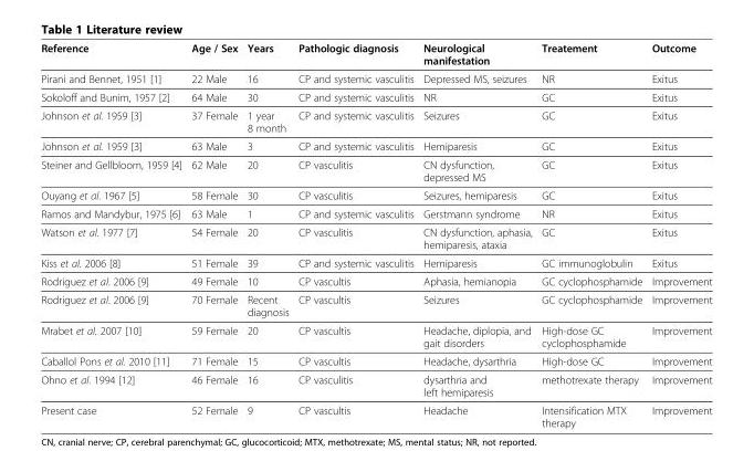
<table><thead><tr><td>Reference</td><td>Age / Sex</td><td>Years</td><td>Pathologic diagnosis</td><td>Neurological manifestation</td><td>Treatement</td><td>Outcome</td></tr></thead><tbody><tr><td>Pirani and Bennet, 1951 [1]</td><td>22 Male</td><td>16</td><td>CP and systemic vasculitis</td><td>Depressed MS, seizures</td><td>NR</td><td>Exitus</td></tr><tr><td>Sokoloff and Bunim, 1957 [2]</td><td>64 Male</td><td>30</td><td>CP and systemic vasculitis</td><td>NR</td><td>GC</td><td>Exitus</td></tr><tr><td>Johnson et al. 1959 [3]</td><td>37 Female</td><td>1 year 8 month</td><td>CP and systemic vasculitis</td><td>Seizures</td><td>GC</td><td>Exitus</td></tr><tr><td>Johnson et al. 1959 [3]</td><td>63 Male</td><td>3</td><td>CP and systemic vasculitis</td><td>Hemiparesis</td><td>GC</td><td>Exitus</td></tr><tr><td>Steiner and Gellbloom, 1959 [4]</td><td>62 Male</td><td>20</td><td>CP vasculitis</td><td>CN dysfunction, depressed MS</td><td>GC</td><td>Exitus</td></tr><tr><td>Ouyang et al. 1967 [5]</td><td>58 Female</td><td>30</td><td>CP vasculitis</td><td>Seizures, hemiparesis</td><td>GC</td><td>Exitus</td></tr><tr><td>Ramos and Mandybur, 1975 [6]</td><td>63 Male</td><td>1</td><td>CP and systemic vasculitis</td><td>Gerstmann syndrome</td><td>NR</td><td>Exitus</td></tr><tr><td>Watson et al. 1977 [7]</td><td>54 Female</td><td>20</td><td>CP vasculitis</td><td>CN dysfunction, aphasia, hemiparesis, ataxia</td><td>GC</td><td>Exitus</td></tr><tr><td>Kiss et al. 2006 [8]</td><td>51 Female</td><td>39</td><td>CP and systemic vasculitis</td><td>Hemiparesis</td><td>GC immunoglobulin</td><td>Exitus</td></tr><tr><td>Rodriguez et al. 2006 [9]</td><td>49 Female</td><td>10</td><td>CP vascultis</td><td>Aphasia, hemianopia</td><td>GC cyclophosphamide</td><td>Improvement</td></tr><tr><td>Rodriguez et al. 2006 [9]</td><td>70 Female</td><td>Recent diagnosis</td><td>CP vascultis</td><td>Seizures</td><td>GC cyclophosphamide</td><td>Improvement</td></tr><tr><td>Mrabet et al. 2007 [10]</td><td>59 Female</td><td>20</td><td>CP vascultis</td><td>Headache, diplopia, and gait disorders</td><td>High-dose GC cyclophosphamide</td><td>Improvement</td></tr><tr><td>Caballol Pons et al. 2010 [11]</td><td>71 Female</td><td>15</td><td>CP vascultis</td><td>Headache, dysarthria</td><td>High-dose GC</td><td>Improvement</td></tr><tr><td>Ohno et al. 1994 [12]</td><td>46 Female</td><td>16</td><td>CP vasculitis</td><td>dysarthria and left hemiparesis</td><td>methotrexate therapy</td><td>Improvement</td></tr><tr><td>Present case</td><td>52 Female</td><td>9</td><td>CP vascultis</td><td>Headache</td><td>Intensification MTX therapy</td><td>Improvement</td></tr></tbody></table>